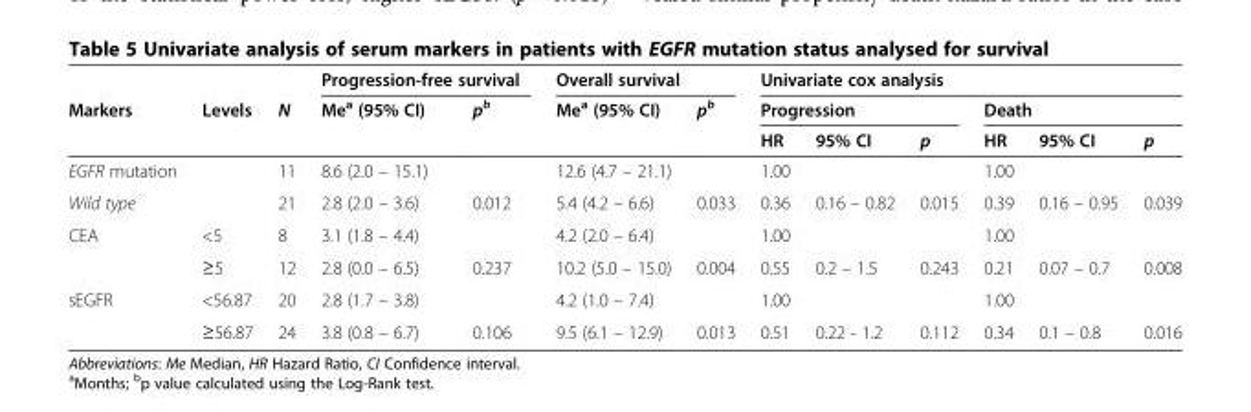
<table><thead><tr><td rowspan="3">Markers</td><td rowspan="3">Levels</td><td rowspan="3">N</td><td colspan="2">Progression-free survival</td><td colspan="2">Overall survival</td><td colspan="6">Univariate cox analysis</td></tr><tr><td rowspan="2">Me<sup>a</sup> (95% CI)</td><td rowspan="2">p<sup>b</sup></td><td rowspan="2">Me<sup>a</sup> (95% CI)</td><td rowspan="2">p<sup>b</sup></td><td colspan="3">Progression</td><td colspan="3">Death</td></tr><tr><td>HR</td><td>95% CI</td><td>p</td><td>HR</td><td>95% CI</td><td>p</td></tr></thead><tbody><tr><td>EGFR mutation</td><td></td><td>11</td><td>8.6 (2.0 – 15.1)</td><td></td><td>12.6 (4.7 – 21.1)</td><td></td><td>1.00</td><td></td><td></td><td>1.00</td><td></td><td></td></tr><tr><td>Wild type</td><td></td><td>21</td><td>2.8 (2.0 – 3.6)</td><td>0.012</td><td>5.4 (4.2 – 6.6)</td><td>0.033</td><td>0.36</td><td>0.16 – 0.82</td><td>0.015</td><td>0.39</td><td>0.16 – 0.95</td><td>0.039</td></tr><tr><td rowspan="2">CEA</td><td>&lt;5</td><td>8</td><td>3.1 (1.8 – 4.4)</td><td></td><td>4.2 (2.0 – 6.4)</td><td></td><td>1.00</td><td></td><td></td><td>1.00</td><td></td><td></td></tr><tr><td>≥5</td><td>12</td><td>2.8 (0.0 – 6.5)</td><td>0.237</td><td>10.2 (5.0 – 15.0)</td><td>0.004</td><td>0.55</td><td>0.2 – 1.5</td><td>0.243</td><td>0.21</td><td>0.07 – 0.7</td><td>0.008</td></tr><tr><td rowspan="2">sEGFR</td><td>&lt;56.87</td><td>20</td><td>2.8 (1.7 – 3.8)</td><td></td><td>4.2 (1.0 – 7.4)</td><td></td><td>1.00</td><td></td><td></td><td>1.00</td><td></td><td></td></tr><tr><td>≥56.87</td><td>24</td><td>3.8 (0.8 – 6.7)</td><td>0.106</td><td>9.5 (6.1 – 12.9)</td><td>0.013</td><td>0.51</td><td>0.22 - 1.2</td><td>0.112</td><td>0.34</td><td>0.1 – 0.8</td><td>0.016</td></tr></tbody></table>